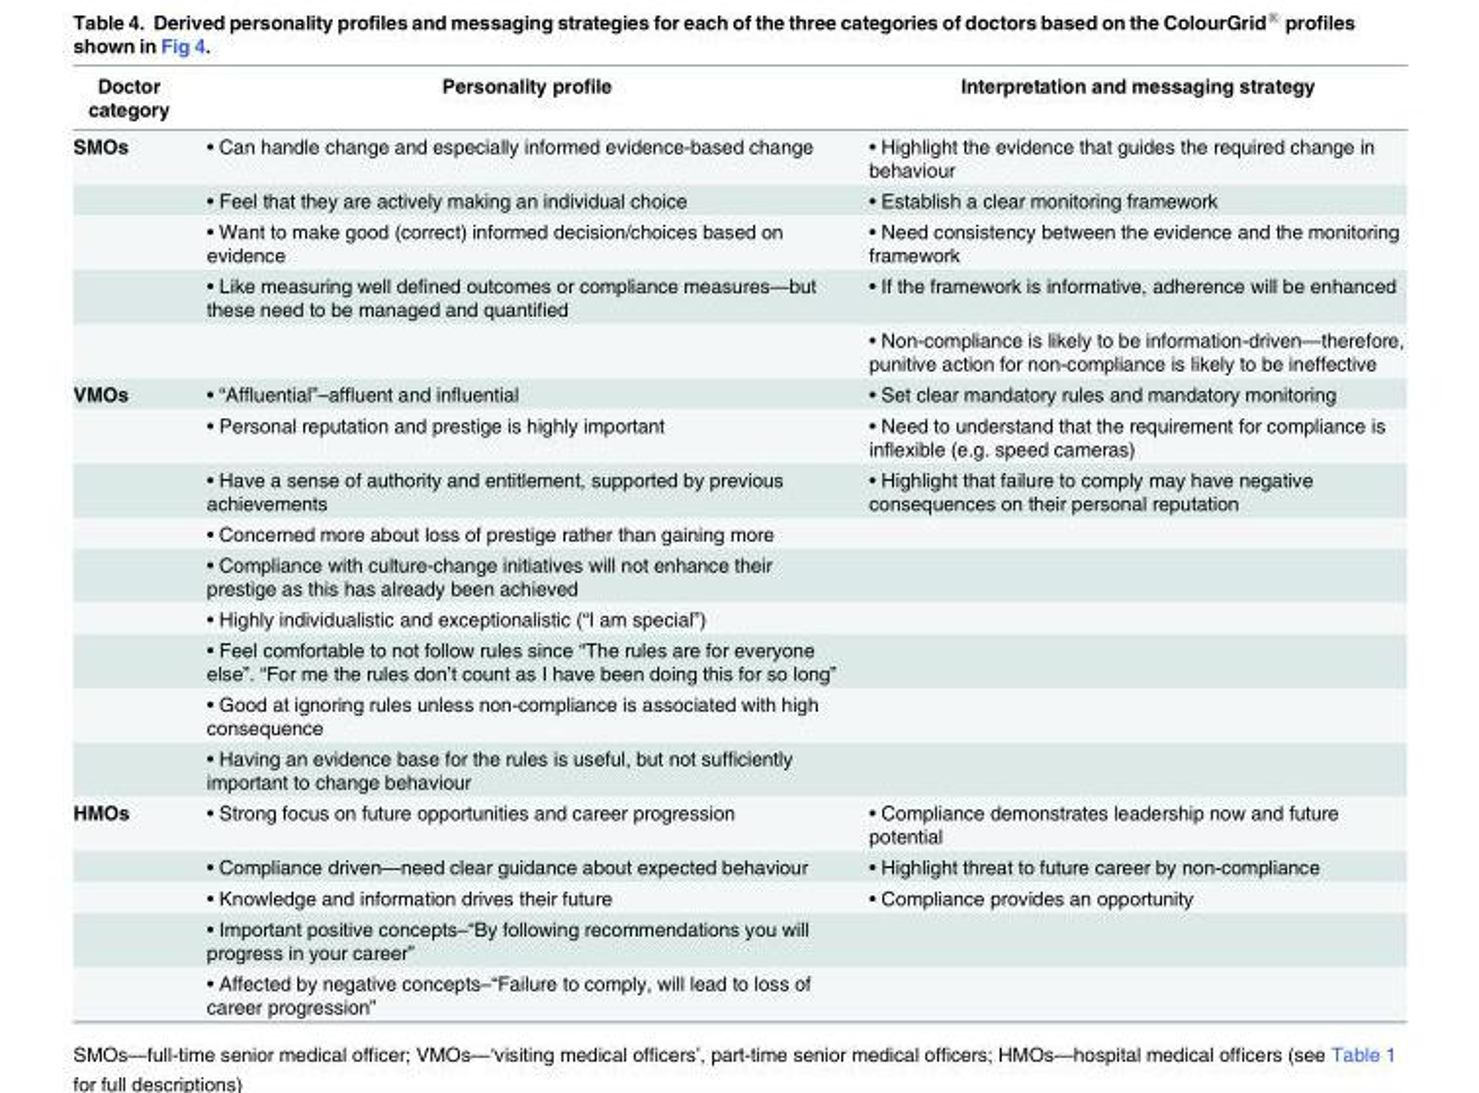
<table><thead><tr><td>Doctor category</td><td>Personality profile</td><td>Interpretation and messaging strategy</td></tr></thead><tbody><tr><td rowspan="5">SMOs</td><td>• Can handle change and especially informed evidence-based change</td><td>• Highlight the evidence that guides the required change in behaviour</td></tr><tr><td>• Feel that they are actively making an individual choice</td><td>• Establish a clear monitoring framework</td></tr><tr><td>• Want to make good (correct) informed decision/choices based on evidence</td><td>• Need consistency between the evidence and the monitoring framework</td></tr><tr><td>• Like measuring well defined outcomes or compliance measures—but these need to be managed and quantified</td><td>• If the framework is informative, adherence will be enhanced</td></tr><tr><td></td><td>• Non-compliance is likely to be information-driven—therefore, punitive action for non-compliance is likely to be ineffective</td></tr><tr><td rowspan="9">VMOs</td><td>• “Affluential”–affluent and influential</td><td>• Set clear mandatory rules and mandatory monitoring</td></tr><tr><td>• Personal reputation and prestige is highly important</td><td>• Need to understand that the requirement for compliance is inflexible (e.g. speed cameras)</td></tr><tr><td>• Have a sense of authority and entitlement, supported by previous achievements</td><td>• Highlight that failure to comply may have negative consequences on their personal reputation</td></tr><tr><td>• Concerned more about loss of prestige rather than gaining more</td><td></td></tr><tr><td>• Compliance with culture-change initiatives will not enhance their prestige as this has already been achieved</td><td></td></tr><tr><td>• Highly individualistic and exceptionalistic (“I am special”)</td><td></td></tr><tr><td>• Feel comfortable to not follow rules since “The rules are for everyone else”. “For me the rules don’t count as I have been doing this for so long”</td><td></td></tr><tr><td>• Good at ignoring rules unless non-compliance is associated with high consequence</td><td></td></tr><tr><td>• Having an evidence base for the rules is useful, but not sufficiently important to change behaviour</td><td></td></tr><tr><td rowspan="5">HMOs</td><td>• Strong focus on future opportunities and career progression</td><td>• Compliance demonstrates leadership now and future potential</td></tr><tr><td>• Compliance driven—need clear guidance about expected behaviour</td><td>• Highlight threat to future career by non-compliance</td></tr><tr><td>• Knowledge and information drives their future</td><td>• Compliance provides an opportunity</td></tr><tr><td>• Important positive concepts–“By following recommendations you will progress in your career”</td><td></td></tr><tr><td>• Affected by negative concepts–“Failure to comply, will lead to loss of career progression”</td><td></td></tr></tbody></table>